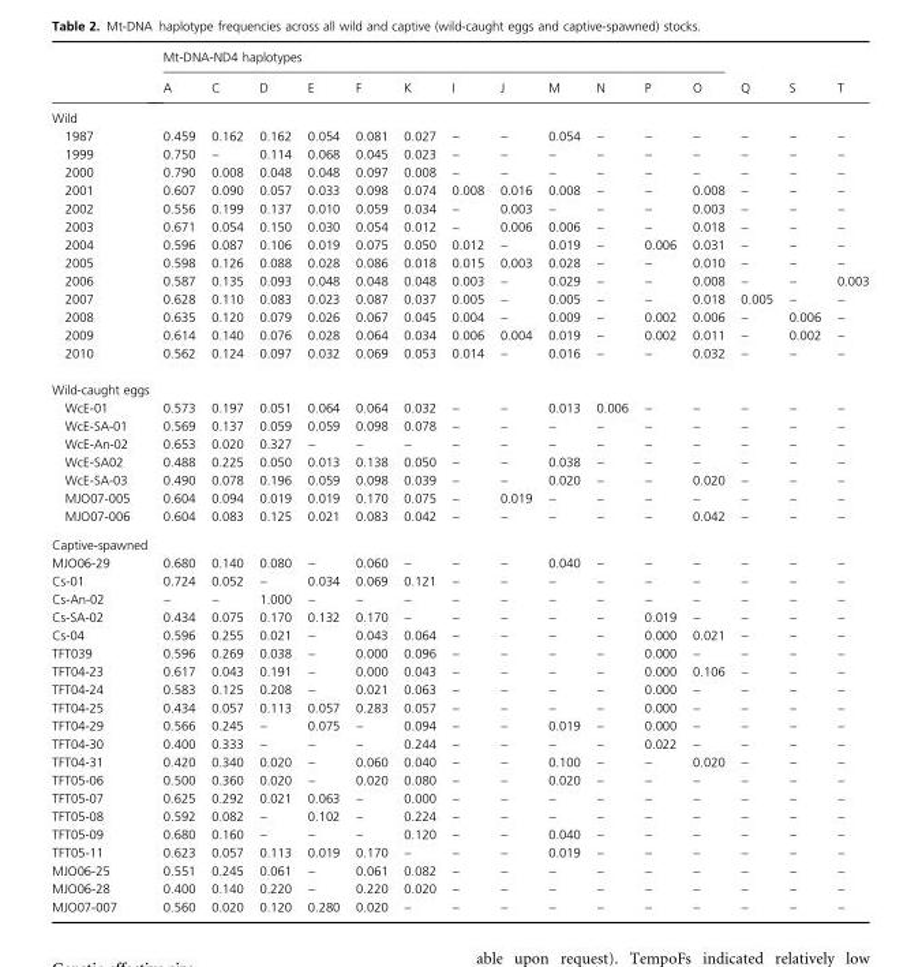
<table><thead><tr><td rowspan="2"></td><td colspan="12">Mt-DNA-ND4 haplotypes</td><td rowspan="2">Q</td><td rowspan="2">S</td><td rowspan="2">T</td></tr><tr><td>A</td><td>C</td><td>D</td><td>E</td><td>F</td><td>K</td><td>I</td><td>J</td><td>M</td><td>N</td><td>P</td><td>O</td></tr></thead><tbody><tr><td colspan="16">Wild</td></tr><tr><td>1987</td><td>0.459</td><td>0.162</td><td>0.162</td><td>0.054</td><td>0.081</td><td>0.027</td><td>–</td><td>–</td><td>0.054</td><td>–</td><td>–</td><td>–</td><td>–</td><td>–</td><td>–</td></tr><tr><td>1999</td><td>0.750</td><td>–</td><td>0.114</td><td>0.068</td><td>0.045</td><td>0.023</td><td>–</td><td>–</td><td>–</td><td>–</td><td>–</td><td>–</td><td>–</td><td>–</td><td>–</td></tr><tr><td>2000</td><td>0.790</td><td>0.008</td><td>0.048</td><td>0.048</td><td>0.097</td><td>0.008</td><td>–</td><td>–</td><td>–</td><td>–</td><td>–</td><td>–</td><td>–</td><td>–</td><td>–</td></tr><tr><td>2001</td><td>0.607</td><td>0.090</td><td>0.057</td><td>0.033</td><td>0.098</td><td>0.074</td><td>0.008</td><td>0.016</td><td>0.008</td><td>–</td><td>–</td><td>0.008</td><td>–</td><td>–</td><td>–</td></tr><tr><td>2002</td><td>0.556</td><td>0.199</td><td>0.137</td><td>0.010</td><td>0.059</td><td>0.034</td><td>–</td><td>0.003</td><td>–</td><td>–</td><td>–</td><td>0.003</td><td>–</td><td>–</td><td>–</td></tr><tr><td>2003</td><td>0.671</td><td>0.054</td><td>0.150</td><td>0.030</td><td>0.054</td><td>0.012</td><td>–</td><td>0.006</td><td>0.006</td><td>–</td><td>–</td><td>0.018</td><td>–</td><td>–</td><td>–</td></tr><tr><td>2004</td><td>0.596</td><td>0.087</td><td>0.106</td><td>0.019</td><td>0.075</td><td>0.050</td><td>0.012</td><td>–</td><td>0.019</td><td>–</td><td>0.006</td><td>0.031</td><td>–</td><td>–</td><td>–</td></tr><tr><td>2005</td><td>0.598</td><td>0.126</td><td>0.088</td><td>0.028</td><td>0.086</td><td>0.018</td><td>0.015</td><td>0.003</td><td>0.028</td><td>–</td><td>–</td><td>0.010</td><td>–</td><td>–</td><td>–</td></tr><tr><td>2006</td><td>0.587</td><td>0.135</td><td>0.093</td><td>0.048</td><td>0.048</td><td>0.048</td><td>0.003</td><td>–</td><td>0.029</td><td>–</td><td>–</td><td>0.008</td><td>–</td><td>–</td><td>0.003</td></tr><tr><td>2007</td><td>0.628</td><td>0.110</td><td>0.083</td><td>0.023</td><td>0.087</td><td>0.037</td><td>0.005</td><td>–</td><td>0.005</td><td>–</td><td>–</td><td>0.018</td><td>0.005</td><td>–</td><td>–</td></tr><tr><td>2008</td><td>0.635</td><td>0.120</td><td>0.079</td><td>0.026</td><td>0.067</td><td>0.045</td><td>0.004</td><td>–</td><td>0.009</td><td>–</td><td>0.002</td><td>0.006</td><td>–</td><td>0.006</td><td>–</td></tr><tr><td>2009</td><td>0.614</td><td>0.140</td><td>0.076</td><td>0.028</td><td>0.064</td><td>0.034</td><td>0.006</td><td>0.004</td><td>0.019</td><td>–</td><td>0.002</td><td>0.011</td><td>–</td><td>0.002</td><td>–</td></tr><tr><td>2010</td><td>0.562</td><td>0.124</td><td>0.097</td><td>0.032</td><td>0.069</td><td>0.053</td><td>0.014</td><td>–</td><td>0.016</td><td>–</td><td>–</td><td>0.032</td><td>–</td><td>–</td><td>–</td></tr><tr><td colspan="16">Wild-caught eggs</td></tr><tr><td>WcE-01</td><td>0.573</td><td>0.197</td><td>0.051</td><td>0.064</td><td>0.064</td><td>0.032</td><td>–</td><td>–</td><td>0.013</td><td>0.006</td><td>–</td><td>–</td><td>–</td><td>–</td><td>–</td></tr><tr><td>WcE-SA-01</td><td>0.569</td><td>0.137</td><td>0.059</td><td>0.059</td><td>0.098</td><td>0.078</td><td>–</td><td>–</td><td>–</td><td>–</td><td>–</td><td>–</td><td>–</td><td>–</td><td>–</td></tr><tr><td>WcE-An-02</td><td>0.653</td><td>0.020</td><td>0.327</td><td>–</td><td>–</td><td>–</td><td>–</td><td>–</td><td>–</td><td>–</td><td>–</td><td>–</td><td>–</td><td>–</td><td>–</td></tr><tr><td>WcE-SA02</td><td>0.488</td><td>0.225</td><td>0.050</td><td>0.013</td><td>0.138</td><td>0.050</td><td>–</td><td>–</td><td>0.038</td><td>–</td><td>–</td><td>–</td><td>–</td><td>–</td><td>–</td></tr><tr><td>WcE-SA-03</td><td>0.490</td><td>0.078</td><td>0.196</td><td>0.059</td><td>0.098</td><td>0.039</td><td>–</td><td>–</td><td>0.020</td><td>–</td><td>–</td><td>0.020</td><td>–</td><td>–</td><td>–</td></tr><tr><td>MJO07-005</td><td>0.604</td><td>0.094</td><td>0.019</td><td>0.019</td><td>0.170</td><td>0.075</td><td>–</td><td>0.019</td><td>–</td><td>–</td><td>–</td><td>–</td><td>–</td><td>–</td><td>–</td></tr><tr><td>MJO07-006</td><td>0.604</td><td>0.083</td><td>0.125</td><td>0.021</td><td>0.083</td><td>0.042</td><td>–</td><td>–</td><td>–</td><td>–</td><td>–</td><td>0.042</td><td>–</td><td>–</td><td>–</td></tr><tr><td colspan="16">Captive-spawned</td></tr><tr><td>MJO06-29</td><td>0.680</td><td>0.140</td><td>0.080</td><td>–</td><td>0.060</td><td>–</td><td>–</td><td>–</td><td>0.040</td><td>–</td><td>–</td><td>–</td><td>–</td><td>–</td><td>–</td></tr><tr><td>Cs-01</td><td>0.724</td><td>0.052</td><td>–</td><td>0.034</td><td>0.069</td><td>0.121</td><td>–</td><td>–</td><td>–</td><td>–</td><td>–</td><td>–</td><td>–</td><td>–</td><td>–</td></tr><tr><td>Cs-An-02</td><td>–</td><td>–</td><td>1.000</td><td>–</td><td>–</td><td>–</td><td>–</td><td>–</td><td>–</td><td>–</td><td>–</td><td>–</td><td>–</td><td>–</td><td>–</td></tr><tr><td>Cs-SA-02</td><td>0.434</td><td>0.075</td><td>0.170</td><td>0.132</td><td>0.170</td><td>–</td><td>–</td><td>–</td><td>–</td><td>–</td><td>0.019</td><td>–</td><td>–</td><td>–</td><td>–</td></tr><tr><td>Cs-04</td><td>0.596</td><td>0.255</td><td>0.021</td><td>–</td><td>0.043</td><td>0.064</td><td>–</td><td>–</td><td>–</td><td>–</td><td>0.000</td><td>0.021</td><td>–</td><td>–</td><td>–</td></tr><tr><td>TFT039</td><td>0.596</td><td>0.269</td><td>0.038</td><td>–</td><td>0.000</td><td>0.096</td><td>–</td><td>–</td><td>–</td><td>–</td><td>0.000</td><td>–</td><td>–</td><td>–</td><td>–</td></tr><tr><td>TFT04-23</td><td>0.617</td><td>0.043</td><td>0.191</td><td>–</td><td>0.000</td><td>0.043</td><td>–</td><td>–</td><td>–</td><td>–</td><td>0.000</td><td>0.106</td><td>–</td><td>–</td><td>–</td></tr><tr><td>TFT04-24</td><td>0.583</td><td>0.125</td><td>0.208</td><td>–</td><td>0.021</td><td>0.063</td><td>–</td><td>–</td><td>–</td><td>–</td><td>0.000</td><td>–</td><td>–</td><td>–</td><td>–</td></tr><tr><td>TFT04-25</td><td>0.434</td><td>0.057</td><td>0.113</td><td>0.057</td><td>0.283</td><td>0.057</td><td>–</td><td>–</td><td>–</td><td>–</td><td>0.000</td><td>–</td><td>–</td><td>–</td><td>–</td></tr><tr><td>TFT04-29</td><td>0.566</td><td>0.245</td><td>–</td><td>0.075</td><td>–</td><td>0.094</td><td>–</td><td>–</td><td>0.019</td><td>–</td><td>0.000</td><td>–</td><td>–</td><td>–</td><td>–</td></tr><tr><td>TFT04-30</td><td>0.400</td><td>0.333</td><td>–</td><td>–</td><td>–</td><td>0.244</td><td>–</td><td>–</td><td>–</td><td>–</td><td>0.022</td><td>–</td><td>–</td><td>–</td><td>–</td></tr><tr><td>TFT04-31</td><td>0.420</td><td>0.340</td><td>0.020</td><td>–</td><td>0.060</td><td>0.040</td><td>–</td><td>–</td><td>0.100</td><td>–</td><td>–</td><td>0.020</td><td>–</td><td>–</td><td>–</td></tr><tr><td>TFT05-06</td><td>0.500</td><td>0.360</td><td>0.020</td><td>–</td><td>0.020</td><td>0.080</td><td>–</td><td>–</td><td>0.020</td><td>–</td><td>–</td><td>–</td><td>–</td><td>–</td><td>–</td></tr><tr><td>TFT05-07</td><td>0.625</td><td>0.292</td><td>0.021</td><td>0.063</td><td>–</td><td>0.000</td><td>–</td><td>–</td><td>–</td><td>–</td><td>–</td><td>–</td><td>–</td><td>–</td><td>–</td></tr><tr><td>TFT05-08</td><td>0.592</td><td>0.082</td><td>–</td><td>0.102</td><td>–</td><td>0.224</td><td>–</td><td>–</td><td>–</td><td>–</td><td>–</td><td>–</td><td>–</td><td>–</td><td>–</td></tr><tr><td>TFT05-09</td><td>0.680</td><td>0.160</td><td>–</td><td>–</td><td>–</td><td>0.120</td><td>–</td><td>–</td><td>0.040</td><td>–</td><td>–</td><td>–</td><td>–</td><td>–</td><td>–</td></tr><tr><td>TFT05-11</td><td>0.623</td><td>0.057</td><td>0.113</td><td>0.019</td><td>0.170</td><td>–</td><td>–</td><td>–</td><td>0.019</td><td>–</td><td>–</td><td>–</td><td>–</td><td>–</td><td>–</td></tr><tr><td>MJO06-25</td><td>0.551</td><td>0.245</td><td>0.061</td><td>–</td><td>0.061</td><td>0.082</td><td>–</td><td>–</td><td>–</td><td>–</td><td>–</td><td>–</td><td>–</td><td>–</td><td>–</td></tr><tr><td>MJO06-28</td><td>0.400</td><td>0.140</td><td>0.220</td><td>–</td><td>0.220</td><td>0.020</td><td>–</td><td>–</td><td>–</td><td>–</td><td>–</td><td>–</td><td>–</td><td>–</td><td>–</td></tr><tr><td>MJO07-007</td><td>0.560</td><td>0.020</td><td>0.120</td><td>0.280</td><td>0.020</td><td>–</td><td>–</td><td>–</td><td>–</td><td>–</td><td>–</td><td>–</td><td>–</td><td>–</td><td>–</td></tr></tbody></table>